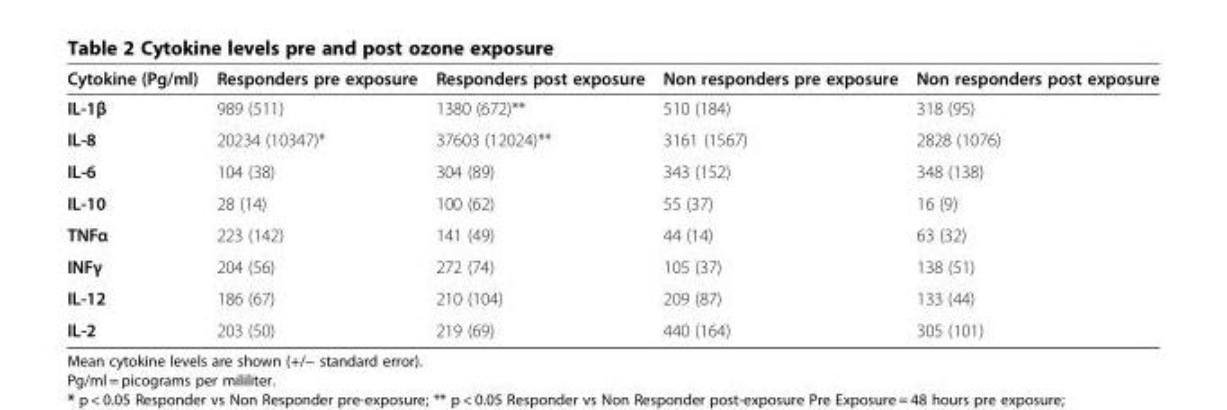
<table><thead><tr><td>Cytokine (Pg/ml)</td><td>Responders pre exposure</td><td>Responders post exposure</td><td>Non responders pre exposure</td><td>Non responders post exposure</td></tr></thead><tbody><tr><td>IL-1β</td><td>989 (511)</td><td>1380 (672)**</td><td>510 (184)</td><td>318 (95)</td></tr><tr><td>IL-8</td><td>20234 (10347)*</td><td>37603 (12024)**</td><td>3161 (1567)</td><td>2828 (1076)</td></tr><tr><td>IL-6</td><td>104 (38)</td><td>304 (89)</td><td>343 (152)</td><td>348 (138)</td></tr><tr><td>IL-10</td><td>28 (14)</td><td>100 (62)</td><td>55 (37)</td><td>16 (9)</td></tr><tr><td>TNFα</td><td>223 (142)</td><td>141 (49)</td><td>44 (14)</td><td>63 (32)</td></tr><tr><td>INFγ</td><td>204 (56)</td><td>272 (74)</td><td>105 (37)</td><td>138 (51)</td></tr><tr><td>IL-12</td><td>186 (67)</td><td>210 (104)</td><td>209 (87)</td><td>133 (44)</td></tr><tr><td>IL-2</td><td>203 (50)</td><td>219 (69)</td><td>440 (164)</td><td>305 (101)</td></tr></tbody></table>